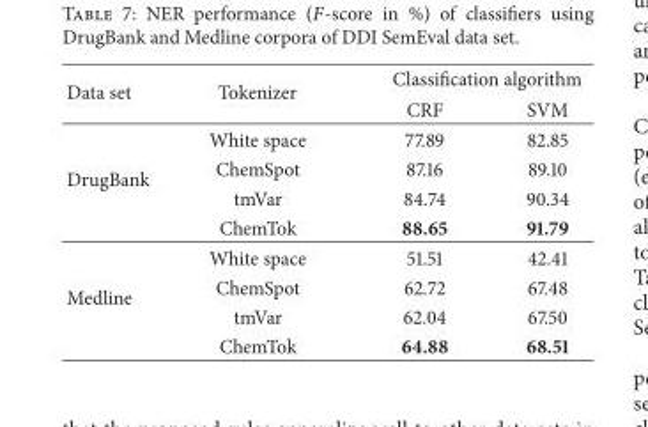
<table><thead><tr><td rowspan="2">Data set</td><td rowspan="2">Tokenizer</td><td colspan="2">Classification algorithm</td></tr><tr><td>CRF</td><td>SVM</td></tr></thead><tbody><tr><td rowspan="4">DrugBank</td><td>White space</td><td>77.89</td><td>82.85</td></tr><tr><td>ChemSpot</td><td>87.16</td><td>89.10</td></tr><tr><td>tmVar</td><td>84.74</td><td>90.34</td></tr><tr><td>ChemTok</td><td>88.65</td><td>91.79</td></tr><tr><td rowspan="4">Medline</td><td>White space</td><td>51.51</td><td>42.41</td></tr><tr><td>ChemSpot</td><td>62.72</td><td>67.48</td></tr><tr><td>tmVar</td><td>62.04</td><td>67.50</td></tr><tr><td>ChemTok</td><td>64.88</td><td>68.51</td></tr></tbody></table>